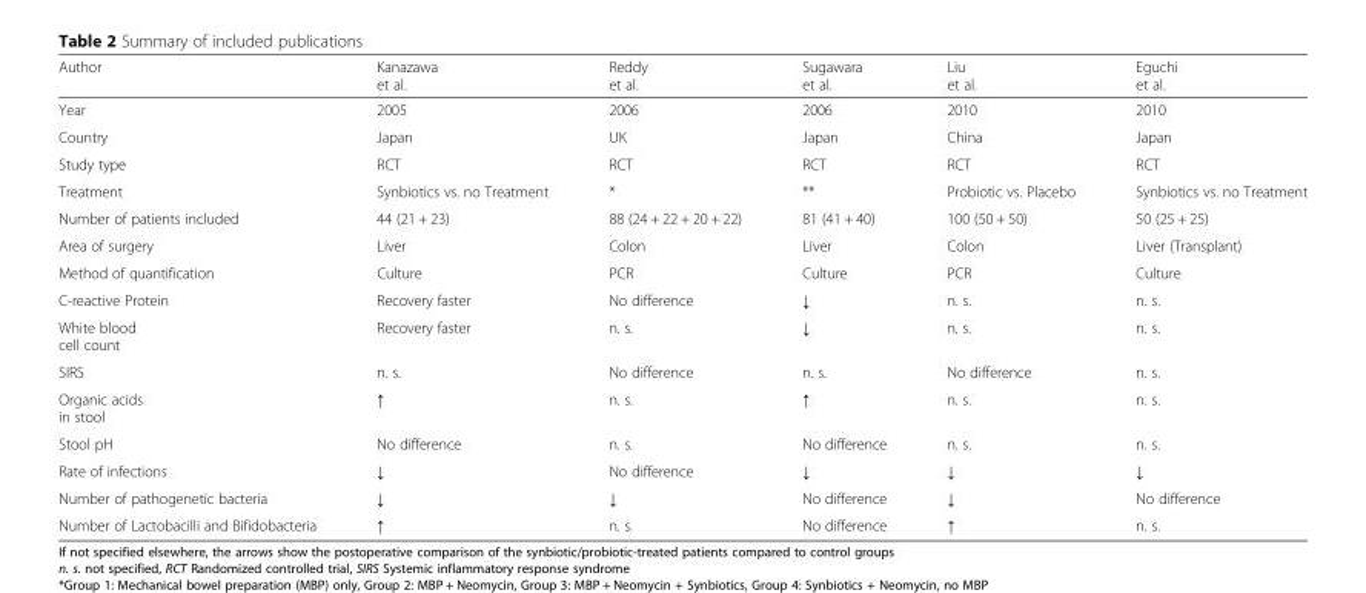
<table><thead><tr><td>Author</td><td>Kanazawa et al.</td><td>Reddy et al.</td><td>Sugawara et al.</td><td>Liu et al.</td><td>Eguchi et al.</td></tr></thead><tbody><tr><td>Year</td><td>2005</td><td>2006</td><td>2006</td><td>2010</td><td>2010</td></tr><tr><td>Country</td><td>Japan</td><td>UK</td><td>Japan</td><td>China</td><td>Japan</td></tr><tr><td>Study type</td><td>RCT</td><td>RCT</td><td>RCT</td><td>RCT</td><td>RCT</td></tr><tr><td>Treatment</td><td>Synbiotics vs. no Treatment</td><td>*</td><td>**</td><td>Probiotic vs. Placebo</td><td>Synbiotics vs. no Treatment</td></tr><tr><td>Number of patients included</td><td>44 (21 + 23)</td><td>88 (24 + 22 + 20 + 22)</td><td>81 (41 + 40)</td><td>100 (50 + 50)</td><td>50 (25 + 25)</td></tr><tr><td>Area of surgery</td><td>Liver</td><td>Colon</td><td>Liver</td><td>Colon</td><td>Liver (Transplant)</td></tr><tr><td>Method of quantification</td><td>Culture</td><td>PCR</td><td>Culture</td><td>PCR</td><td>Culture</td></tr><tr><td>C-reactive Protein</td><td>Recovery faster</td><td>No difference</td><td>↓</td><td>n. s.</td><td>n. s.</td></tr><tr><td>White blood cell count</td><td>Recovery faster</td><td>n. s.</td><td>↓</td><td>n. s.</td><td>n. s.</td></tr><tr><td>SIRS</td><td>n. s.</td><td>No difference</td><td>n. s.</td><td>No difference</td><td>n. s.</td></tr><tr><td>Organic acids in stool</td><td>↑</td><td>n. s.</td><td>↑</td><td>n. s.</td><td>n. s.</td></tr><tr><td>Stool pH</td><td>No difference</td><td>n. s.</td><td>No difference</td><td>n. s.</td><td>n. s.</td></tr><tr><td>Rate of infections</td><td>↓</td><td>No difference</td><td>↓</td><td>↓</td><td>↓</td></tr><tr><td>Number of pathogenetic bacteria</td><td>↓</td><td>↓</td><td>No difference</td><td>↓</td><td>No difference</td></tr><tr><td>Number of Lactobacilli and Bifidobacteria</td><td>↑</td><td>n. s.</td><td>No difference</td><td>↑</td><td>n. s.</td></tr></tbody></table>